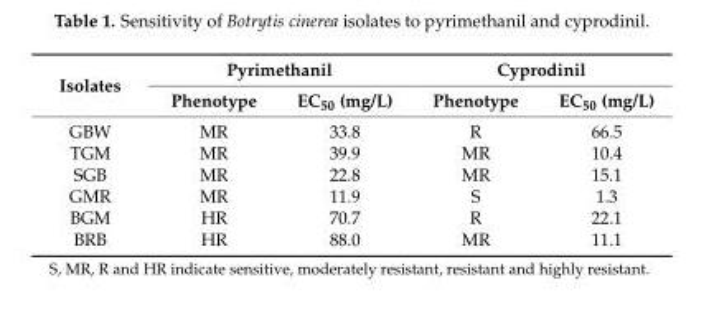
<table><thead><tr><td rowspan="2">Isolates</td><td colspan="2">Pyrimethanil</td><td colspan="2">Cyprodinil</td></tr><tr><td>Phenotype</td><td>EC<sub>50</sub> (mg/L)</td><td>Phenotype</td><td>EC<sub>50</sub> (mg/L)</td></tr></thead><tbody><tr><td>GBW</td><td>MR</td><td>33.8</td><td>R</td><td>66.5</td></tr><tr><td>TGM</td><td>MR</td><td>39.9</td><td>MR</td><td>10.4</td></tr><tr><td>SGB</td><td>MR</td><td>22.8</td><td>MR</td><td>15.1</td></tr><tr><td>GMR</td><td>MR</td><td>11.9</td><td>S</td><td>1.3</td></tr><tr><td>BGM</td><td>HR</td><td>70.7</td><td>R</td><td>22.1</td></tr><tr><td>BRB</td><td>HR</td><td>88.0</td><td>MR</td><td>11.1</td></tr></tbody></table>